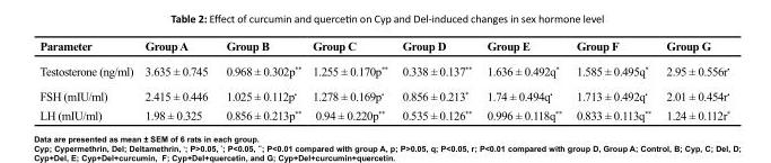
<table><thead><tr><td>Parameter</td><td>Group A</td><td>Group B</td><td>Group C</td><td>Group D</td><td>Group E</td><td>Group F</td><td>Group G</td></tr></thead><tbody><tr><td>Testosterone (ng/ml)</td><td>3.635 ± 0.745</td><td>0.968 ± 0.302p**</td><td>1.255 ± 0.170p**</td><td>0.338 ± 0.137**</td><td>1.636 ± 0.492q*</td><td>1.585 ± 0.495q*</td><td>2.95 ± 0.556r<sup>•</sup></td></tr><tr><td>FSH (mIU/ml)</td><td>2.415 ± 0.446</td><td>1.025 ± 0.112p<sup>•</sup></td><td>1.278 ± 0.169p<sup>•</sup></td><td>0.856 ± 0.213*</td><td>1.74 ± 0.494q<sup>•</sup></td><td>1.713 ± 0.492q<sup>•</sup></td><td>2.01 ± 0.454r<sup>•</sup></td></tr><tr><td>LH (mIU/ml)</td><td>1.98 ± 0.325</td><td>0.856 ± 0.213p**</td><td>0.94 ± 0.220p**</td><td>0.535 ± 0.126**</td><td>0.996 ± 0.118q**</td><td>0.833 ± 0.113q**</td><td>1.24 ± 0.112r*</td></tr></tbody></table>